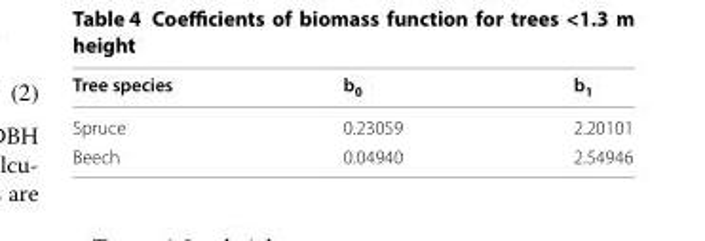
<table><thead><tr><td>Tree species</td><td>b<sub>0</sub></td><td>b<sub>1</sub></td></tr></thead><tbody><tr><td>Spruce</td><td>0.23059</td><td>2.20101</td></tr><tr><td>Beech</td><td>0.04940</td><td>2.54946</td></tr></tbody></table>